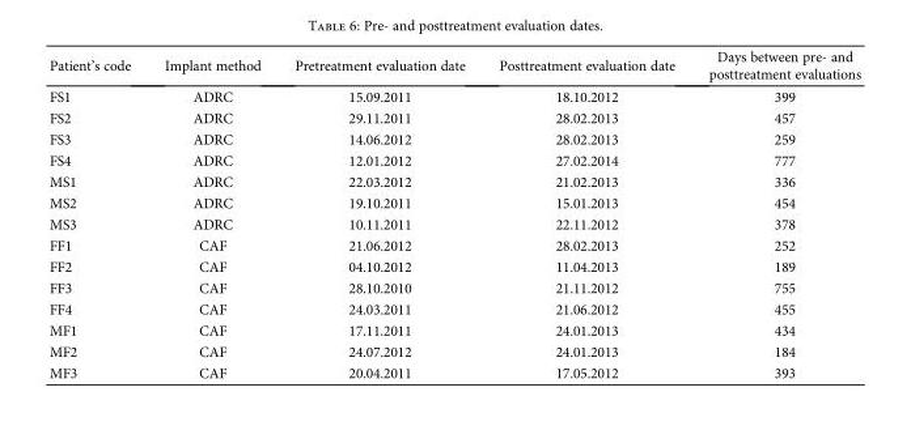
<table><thead><tr><td>Patient’s code</td><td>Implant method</td><td>Pretreatment evaluation date</td><td>Posttreatment evaluation date</td><td>Days between pre- and posttreatment evaluations</td></tr></thead><tbody><tr><td>FS1</td><td>ADRC</td><td>15.09.2011</td><td>18.10.2012</td><td>399</td></tr><tr><td>FS2</td><td>ADRC</td><td>29.11.2011</td><td>28.02.2013</td><td>457</td></tr><tr><td>FS3</td><td>ADRC</td><td>14.06.2012</td><td>28.02.2013</td><td>259</td></tr><tr><td>FS4</td><td>ADRC</td><td>12.01.2012</td><td>27.02.2014</td><td>777</td></tr><tr><td>MS1</td><td>ADRC</td><td>22.03.2012</td><td>21.02.2013</td><td>336</td></tr><tr><td>MS2</td><td>ADRC</td><td>19.10.2011</td><td>15.01.2013</td><td>454</td></tr><tr><td>MS3</td><td>ADRC</td><td>10.11.2011</td><td>22.11.2012</td><td>378</td></tr><tr><td>FF1</td><td>CAF</td><td>21.06.2012</td><td>28.02.2013</td><td>252</td></tr><tr><td>FF2</td><td>CAF</td><td>04.10.2012</td><td>11.04.2013</td><td>189</td></tr><tr><td>FF3</td><td>CAF</td><td>28.10.2010</td><td>21.11.2012</td><td>755</td></tr><tr><td>FF4</td><td>CAF</td><td>24.03.2011</td><td>21.06.2012</td><td>455</td></tr><tr><td>MF1</td><td>CAF</td><td>17.11.2011</td><td>24.01.2013</td><td>434</td></tr><tr><td>MF2</td><td>CAF</td><td>24.07.2012</td><td>24.01.2013</td><td>184</td></tr><tr><td>MF3</td><td>CAF</td><td>20.04.2011</td><td>17.05.2012</td><td>393</td></tr></tbody></table>